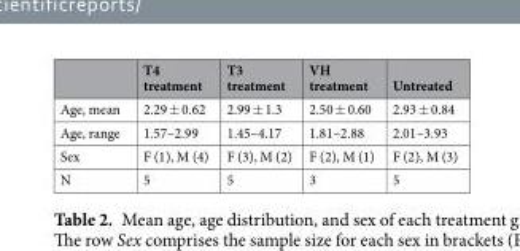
<table><thead><tr><td></td><td>T4 treatment</td><td>T3 treatment</td><td>VH treatment</td><td>Untreated</td></tr></thead><tbody><tr><td>Age, mean</td><td>2.29 ± 0.62</td><td>2.99 ± 1.3</td><td>2.50 ± 0.60</td><td>2.93 ± 0.84</td></tr><tr><td>Age, range</td><td>1.57–2.99</td><td>1.45–4.17</td><td>1.81–2.88</td><td>2.01–3.93</td></tr><tr><td>Sex</td><td>F (1), M (4)</td><td>F (3), M (2)</td><td>F (2), M (1)</td><td>F (2), M (3)</td></tr><tr><td>N</td><td>5</td><td>5</td><td>3</td><td>5</td></tr></tbody></table>